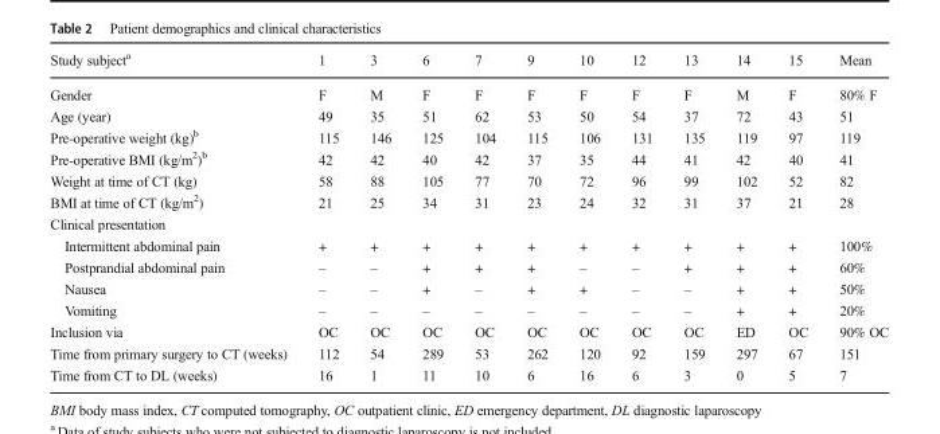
<table><thead><tr><td>Study subject<sup>a</sup></td><td>1</td><td>3</td><td>6</td><td>7</td><td>9</td><td>10</td><td>12</td><td>13</td><td>14</td><td>15</td><td>Mean</td></tr></thead><tbody><tr><td>Gender</td><td>F</td><td>M</td><td>F</td><td>F</td><td>F</td><td>F</td><td>F</td><td>F</td><td>M</td><td>F</td><td>80% F</td></tr><tr><td>Age (year)</td><td>49</td><td>35</td><td>51</td><td>62</td><td>53</td><td>50</td><td>54</td><td>37</td><td>72</td><td>43</td><td>51</td></tr><tr><td>Pre-operative weight (kg)<sup>b</sup></td><td>115</td><td>146</td><td>125</td><td>104</td><td>115</td><td>106</td><td>131</td><td>135</td><td>119</td><td>97</td><td>119</td></tr><tr><td>Pre-operative BMI (kg/m<sup>2</sup>)<sup>b</sup></td><td>42</td><td>42</td><td>40</td><td>42</td><td>37</td><td>35</td><td>44</td><td>41</td><td>42</td><td>40</td><td>41</td></tr><tr><td>Weight at time of CT (kg)</td><td>58</td><td>88</td><td>105</td><td>77</td><td>70</td><td>72</td><td>96</td><td>99</td><td>102</td><td>52</td><td>82</td></tr><tr><td>BMI at time of CT (kg/m<sup>2</sup>)</td><td>21</td><td>25</td><td>34</td><td>31</td><td>23</td><td>24</td><td>32</td><td>31</td><td>37</td><td>21</td><td>28</td></tr><tr><td colspan="12">Clinical presentation</td></tr><tr><td>Intermittent abdominal pain</td><td>+</td><td>+</td><td>+</td><td>+</td><td>+</td><td>+</td><td>+</td><td>+</td><td>+</td><td>+</td><td>100%</td></tr><tr><td>Postprandial abdominal pain</td><td>–</td><td>–</td><td>+</td><td>+</td><td>+</td><td>–</td><td>–</td><td>+</td><td>+</td><td>+</td><td>60%</td></tr><tr><td>Nausea</td><td>–</td><td>–</td><td>+</td><td>–</td><td>+</td><td>+</td><td>–</td><td>–</td><td>+</td><td>+</td><td>50%</td></tr><tr><td>Vomiting</td><td>–</td><td>–</td><td>–</td><td>–</td><td>–</td><td>–</td><td>–</td><td>–</td><td>+</td><td>+</td><td>20%</td></tr><tr><td>Inclusion via</td><td>OC</td><td>OC</td><td>OC</td><td>OC</td><td>OC</td><td>OC</td><td>OC</td><td>OC</td><td>ED</td><td>OC</td><td>90% OC</td></tr><tr><td>Time from primary surgery to CT (weeks)</td><td>112</td><td>54</td><td>289</td><td>53</td><td>262</td><td>120</td><td>92</td><td>159</td><td>297</td><td>67</td><td>151</td></tr><tr><td>Time from CT to DL (weeks)</td><td>16</td><td>1</td><td>11</td><td>10</td><td>6</td><td>16</td><td>6</td><td>3</td><td>0</td><td>5</td><td>7</td></tr></tbody></table>